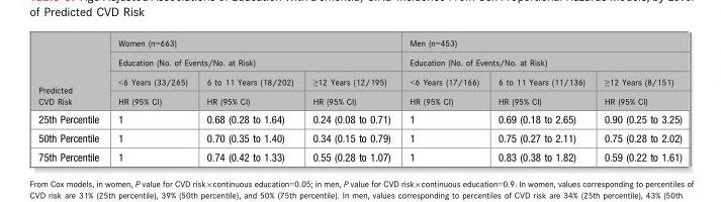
<table><thead><tr><td rowspan="4">Predicted CVD Risk</td><td rowspan="2" colspan="3">Women (n=663) Education (No. of Events/No. at Risk)</td><td rowspan="2" colspan="3">Men (n=453) Education (No. of Events/No. at Risk)</td></tr><tr></tr><tr><td rowspan="2">&lt;6 Years (33/265) HR (95% CI)</td><td rowspan="2">6 to 11 Years (18/202) HR (95% CI)</td><td rowspan="2">≥12 Years (12/195) HR (95% CI)</td><td rowspan="2">&lt;6 Years (17/166) HR (95% CI)</td><td rowspan="2">6 to 11 Years (11/136) HR (95% CI)</td><td rowspan="2">≥12 Years (8/151) HR (95% CI)</td></tr><tr></tr></thead><tbody><tr><td>25th Percentile</td><td>1</td><td>0.68 (0.28 to 1.64)</td><td>0.24 (0.08 to 0.71)</td><td>1</td><td>0.69 (0.18 to 2.65)</td><td>0.90 (0.25 to 3.25)</td></tr><tr><td>50th Percentile</td><td>1</td><td>0.70 (0.35 to 1.40)</td><td>0.34 (0.15 to 0.79)</td><td>1</td><td>0.75 (0.27 to 2.11)</td><td>0.75 (0.28 to 2.02)</td></tr><tr><td>75th Percentile</td><td>1</td><td>0.74 (0.42 to 1.33)</td><td>0.55 (0.28 to 1.07)</td><td>1</td><td>0.83 (0.38 to 1.82)</td><td>0.59 (0.22 to 1.61)</td></tr></tbody></table>